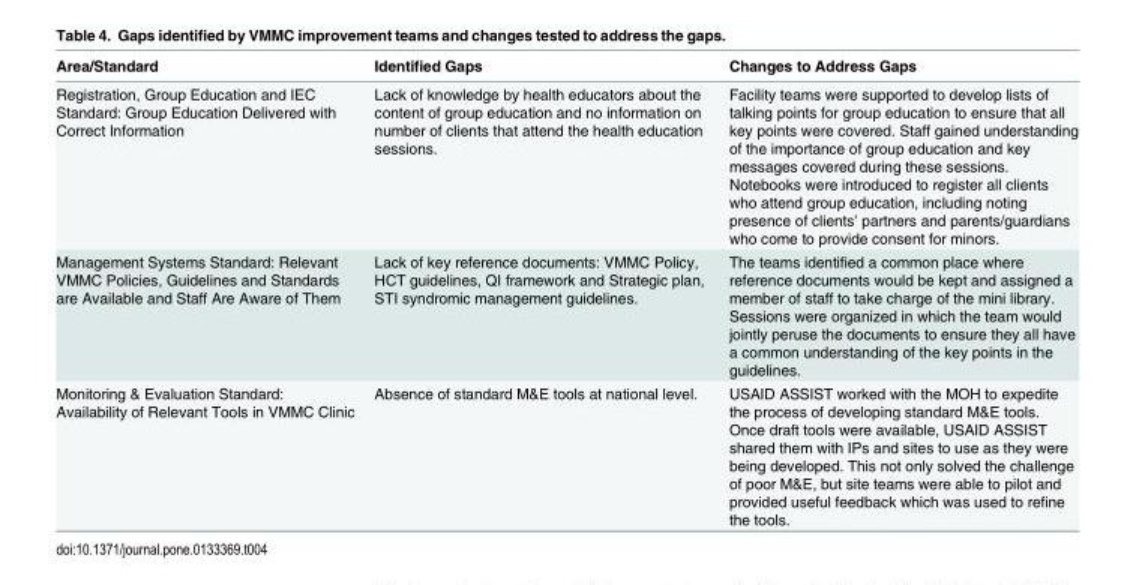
<table><thead><tr><td>Area/Standard</td><td>Identified Gaps</td><td>Changes to Address Gaps</td></tr></thead><tbody><tr><td>Registration, Group Education and IEC Standard: Group Education Delivered with Correct Information</td><td>Lack of knowledge by health educators about the content of group education and no information on number of clients that attend the health education sessions.</td><td>Facility teams were supported to develop lists of talking points for group education to ensure that all key points were covered. Staff gained understanding of the importance of group education and key messages covered during these sessions. Notebooks were introduced to register all clients who attend group education, including noting presence of clients’ partners and parents/guardians who come to provide consent for minors.</td></tr><tr><td>Management Systems Standard: Relevant VMMC Policies, Guidelines and Standards are Available and Staff Are Aware of Them</td><td>Lack of key reference documents: VMMC Policy, HCT guidelines, QI framework and Strategic plan, STI syndromic management guidelines.</td><td>The teams identified a common place where reference documents would be kept and assigned a member of staff to take charge of the mini library. Sessions were organized in which the team would jointly peruse the documents to ensure they all have a common understanding of the key points in the guidelines.</td></tr><tr><td>Monitoring &amp; Evaluation Standard: Availability of Relevant Tools in VMMC Clinic</td><td>Absence of standard M&amp;E tools at national level.</td><td>USAID ASSIST worked with the MOH to expedite the process of developing standard M&amp;E tools. Once draft tools were available, USAID ASSIST shared them with IPs and sites to use as they were being developed. This not only solved the challenge of poor M&amp;E, but site teams were able to pilot and provided useful feedback which was used to refine the tools.</td></tr></tbody></table>